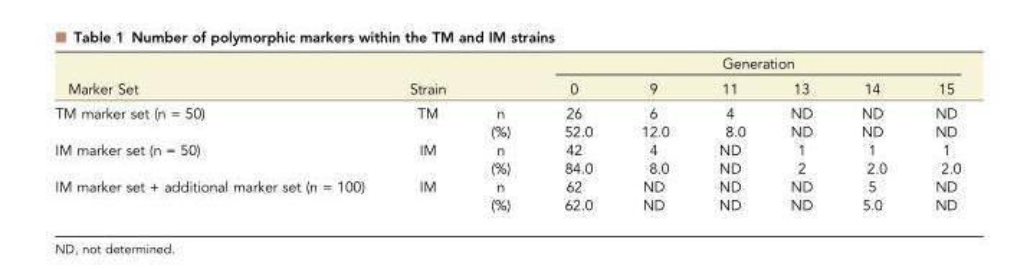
<table><thead><tr><td rowspan="2">Marker Set</td><td rowspan="2">Strain</td><td rowspan="2"></td><td colspan="6">Generation</td></tr><tr><td>0</td><td>9</td><td>11</td><td>13</td><td>14</td><td>15</td></tr></thead><tbody><tr><td rowspan="2">TM marker set (n = 50)</td><td>TM</td><td>n</td><td>26</td><td>6</td><td>4</td><td>ND</td><td>ND</td><td>ND</td></tr><tr><td></td><td>(%)</td><td>52.0</td><td>12.0</td><td>8.0</td><td>ND</td><td>ND</td><td>ND</td></tr><tr><td rowspan="2">IM marker set (n = 50)</td><td>IM</td><td>n</td><td>42</td><td>4</td><td>ND</td><td>1</td><td>1</td><td>1</td></tr><tr><td></td><td>(%)</td><td>84.0</td><td>8.0</td><td>ND</td><td>2</td><td>2.0</td><td>2.0</td></tr><tr><td rowspan="2">IM marker set + additional marker set (n = 100)</td><td>IM</td><td>n</td><td>62</td><td>ND</td><td>ND</td><td>ND</td><td>5</td><td>ND</td></tr><tr><td></td><td>(%)</td><td>62.0</td><td>ND</td><td>ND</td><td>ND</td><td>5.0</td><td>ND</td></tr></tbody></table>